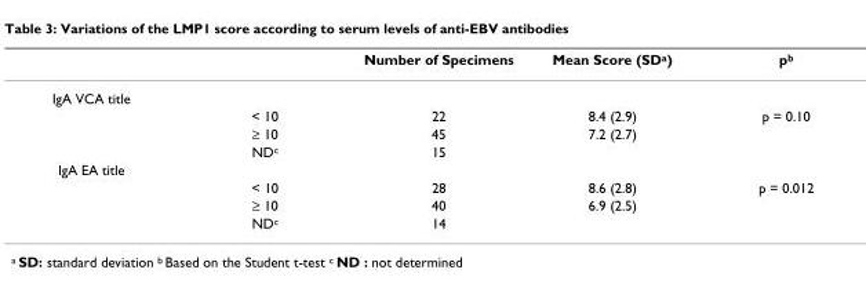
<table><thead><tr><td></td><td></td><td>Number of Specimens</td><td>Mean Score (SD<sup>a</sup>)</td><td>p<sup>b</sup></td></tr></thead><tbody><tr><td colspan="5">IgA VCA title</td></tr><tr><td></td><td>&lt; 10</td><td>22</td><td>8.4 (2.9)</td><td>p = 0.10</td></tr><tr><td></td><td>≥ 10</td><td>45</td><td>7.2 (2.7)</td><td></td></tr><tr><td></td><td>ND<sup>c</sup></td><td>15</td><td></td><td></td></tr><tr><td colspan="5">IgA EA title</td></tr><tr><td></td><td>&lt; 10</td><td>28</td><td>8.6 (2.8)</td><td>p = 0.012</td></tr><tr><td></td><td>≥ 10</td><td>40</td><td>6.9 (2.5)</td><td></td></tr><tr><td></td><td>ND<sup>c</sup></td><td>14</td><td></td><td></td></tr></tbody></table>